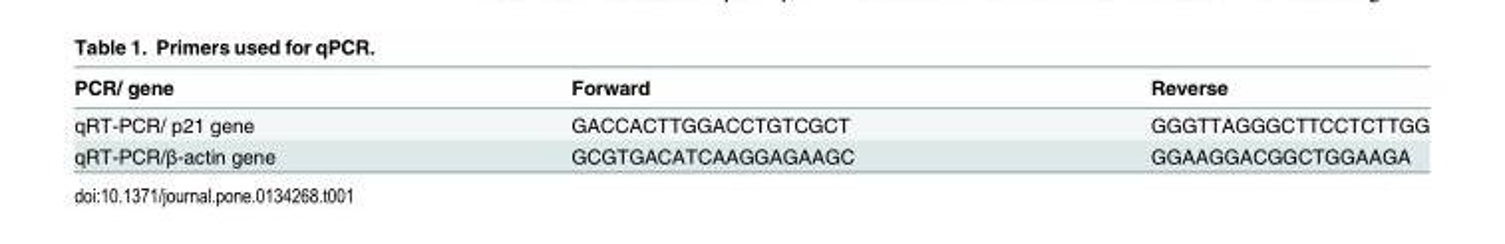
<table><thead><tr><td>PCR/ gene</td><td>Forward</td><td>Reverse</td></tr></thead><tbody><tr><td>qRT-PCR/ p21 gene</td><td>GACCACTTGGACCTGTCGCT</td><td>GGGTTAGGGCTTCCTCTTGG</td></tr><tr><td>qRT-PCR/β-actin gene</td><td>GCGTGACATCAAGGAGAAGC</td><td>GGAAGGACGGCTGGAAGA</td></tr></tbody></table>